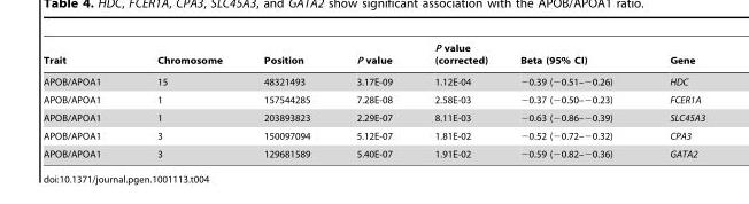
<table><thead><tr><td>Trait</td><td>Chromosome</td><td>Position</td><td>P value</td><td>P value (corrected)</td><td>Beta (95% CI)</td><td>Gene</td></tr></thead><tbody><tr><td>APOB/APOA1</td><td>15</td><td>48321493</td><td>3.17E-09</td><td>1.12E-04</td><td>−0.39 (−0.51–−0.26)</td><td>HDC</td></tr><tr><td>APOB/APOA1</td><td>1</td><td>157544285</td><td>7.28E-08</td><td>2.58E-03</td><td>−0.37 (−0.50–−0.23)</td><td>FCER1A</td></tr><tr><td>APOB/APOA1</td><td>1</td><td>203893823</td><td>2.29E-07</td><td>8.11E-03</td><td>−0.63 (−0.86–−0.39)</td><td>SLC45A3</td></tr><tr><td>APOB/APOA1</td><td>3</td><td>150097094</td><td>5.12E-07</td><td>1.81E-02</td><td>−0.52 (−0.72–−0.32)</td><td>CPA3</td></tr><tr><td>APOB/APOA1</td><td>3</td><td>129681589</td><td>5.40E-07</td><td>1.91E-02</td><td>−0.59 (−0.82–−0.36)</td><td>GATA2</td></tr></tbody></table>